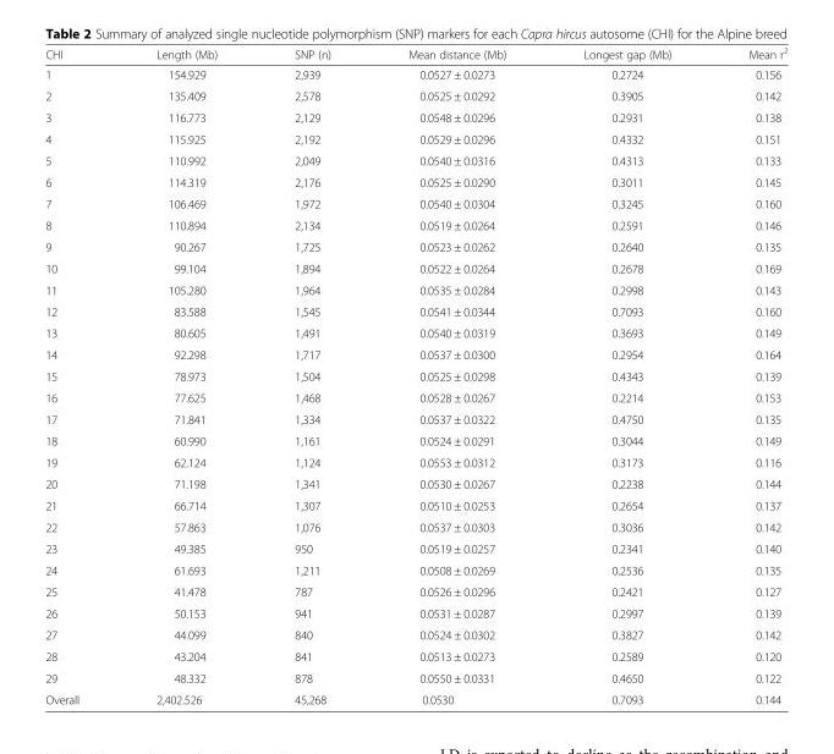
<table><thead><tr><td>CHI</td><td>Length (Mb)</td><td>SNP (n)</td><td>Mean distance (Mb)</td><td>Longest gap (Mb)</td><td>Mean r<sup>2</sup></td></tr></thead><tbody><tr><td>1</td><td>154.929</td><td>2,939</td><td>0.0527 ± 0.0273</td><td>0.2724</td><td>0.156</td></tr><tr><td>2</td><td>135.409</td><td>2,578</td><td>0.0525 ± 0.0292</td><td>0.3905</td><td>0.142</td></tr><tr><td>3</td><td>116.773</td><td>2,129</td><td>0.0548 ± 0.0296</td><td>0.2931</td><td>0.138</td></tr><tr><td>4</td><td>115.925</td><td>2,192</td><td>0.0529 ± 0.0296</td><td>0.4332</td><td>0.151</td></tr><tr><td>5</td><td>110.992</td><td>2,049</td><td>0.0540 ± 0.0316</td><td>0.4313</td><td>0.133</td></tr><tr><td>6</td><td>114.319</td><td>2,176</td><td>0.0525 ± 0.0290</td><td>0.3011</td><td>0.145</td></tr><tr><td>7</td><td>106.469</td><td>1,972</td><td>0.0540 ± 0.0304</td><td>0.3245</td><td>0.160</td></tr><tr><td>8</td><td>110.894</td><td>2,134</td><td>0.0519 ± 0.0264</td><td>0.2591</td><td>0.146</td></tr><tr><td>9</td><td>90.267</td><td>1,725</td><td>0.0523 ± 0.0262</td><td>0.2640</td><td>0.135</td></tr><tr><td>10</td><td>99.104</td><td>1,894</td><td>0.0522 ± 0.0264</td><td>0.2678</td><td>0.169</td></tr><tr><td>11</td><td>105.280</td><td>1,964</td><td>0.0535 ± 0.0284</td><td>0.2998</td><td>0.143</td></tr><tr><td>12</td><td>83.588</td><td>1,545</td><td>0.0541 ± 0.0344</td><td>0.7093</td><td>0.160</td></tr><tr><td>13</td><td>80.605</td><td>1,491</td><td>0.0540 ± 0.0319</td><td>0.3693</td><td>0.149</td></tr><tr><td>14</td><td>92.298</td><td>1,717</td><td>0.0537 ± 0.0300</td><td>0.2954</td><td>0.164</td></tr><tr><td>15</td><td>78.973</td><td>1,504</td><td>0.0525 ± 0.0298</td><td>0.4343</td><td>0.139</td></tr><tr><td>16</td><td>77.625</td><td>1,468</td><td>0.0528 ± 0.0267</td><td>0.2214</td><td>0.153</td></tr><tr><td>17</td><td>71.841</td><td>1,334</td><td>0.0537 ± 0.0322</td><td>0.4750</td><td>0.135</td></tr><tr><td>18</td><td>60.990</td><td>1,161</td><td>0.0524 ± 0.0291</td><td>0.3044</td><td>0.149</td></tr><tr><td>19</td><td>62.124</td><td>1,124</td><td>0.0553 ± 0.0312</td><td>0.3173</td><td>0.116</td></tr><tr><td>20</td><td>71.198</td><td>1,341</td><td>0.0530 ± 0.0267</td><td>0.2238</td><td>0.144</td></tr><tr><td>21</td><td>66.714</td><td>1,307</td><td>0.0510 ± 0.0253</td><td>0.2654</td><td>0.137</td></tr><tr><td>22</td><td>57.863</td><td>1,076</td><td>0.0537 ± 0.0303</td><td>0.3036</td><td>0.142</td></tr><tr><td>23</td><td>49.385</td><td>950</td><td>0.0519 ± 0.0257</td><td>0.2341</td><td>0.140</td></tr><tr><td>24</td><td>61.693</td><td>1,211</td><td>0.0508 ± 0.0269</td><td>0.2536</td><td>0.135</td></tr><tr><td>25</td><td>41.478</td><td>787</td><td>0.0526 ± 0.0296</td><td>0.2421</td><td>0.127</td></tr><tr><td>26</td><td>50.153</td><td>941</td><td>0.0531 ± 0.0287</td><td>0.2997</td><td>0.139</td></tr><tr><td>27</td><td>44.099</td><td>840</td><td>0.0524 ± 0.0302</td><td>0.3827</td><td>0.142</td></tr><tr><td>28</td><td>43.204</td><td>841</td><td>0.0513 ± 0.0273</td><td>0.2589</td><td>0.120</td></tr><tr><td>29</td><td>48.332</td><td>878</td><td>0.0550 ± 0.0331</td><td>0.4650</td><td>0.122</td></tr><tr><td>Overall</td><td>2,402.526</td><td>45,268</td><td>0.0530</td><td>0.7093</td><td>0.144</td></tr></tbody></table>